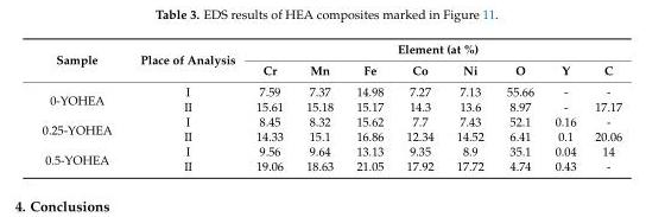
<table><thead><tr><td rowspan="2">Sample</td><td rowspan="2">Place of Analysis</td><td colspan="8">Element (at %)</td></tr><tr><td>Cr</td><td>Mn</td><td>Fe</td><td>Co</td><td>Ni</td><td>O</td><td>Y</td><td>C</td></tr></thead><tbody><tr><td rowspan="2">0-YOHEA</td><td>I</td><td>7.59</td><td>7.37</td><td>14.98</td><td>7.27</td><td>7.13</td><td>55.66</td><td>-</td><td>-</td></tr><tr><td>II</td><td>15.61</td><td>15.18</td><td>15.17</td><td>14.3</td><td>13.6</td><td>8.97</td><td>-</td><td>17.17</td></tr><tr><td rowspan="2">0.25-YOHEA</td><td>I</td><td>8.45</td><td>8.32</td><td>15.62</td><td>7.7</td><td>7.43</td><td>52.1</td><td>0.16</td><td>-</td></tr><tr><td>II</td><td>14.33</td><td>15.1</td><td>16.86</td><td>12.34</td><td>14.52</td><td>6.41</td><td>0.1</td><td>20.06</td></tr><tr><td rowspan="2">0.5-YOHEA</td><td>I</td><td>9.56</td><td>9.64</td><td>13.13</td><td>9.35</td><td>8.9</td><td>35.1</td><td>0.04</td><td>14</td></tr><tr><td>II</td><td>19.06</td><td>18.63</td><td>21.05</td><td>17.92</td><td>17.72</td><td>4.74</td><td>0.43</td><td>-</td></tr></tbody></table>